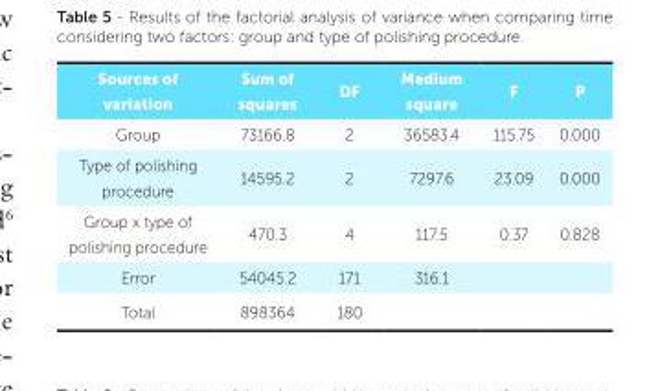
<table><thead><tr><td>Sources of variation</td><td>Sum of squares</td><td>DF</td><td>Medium square</td><td>F</td><td>P</td></tr></thead><tbody><tr><td>Group</td><td>73166.8</td><td>2</td><td>36583.4</td><td>115.75</td><td>0.000</td></tr><tr><td>Type of polishing procedure</td><td>14595.2</td><td>2</td><td>7297.6</td><td>23.09</td><td>0.000</td></tr><tr><td>Group x type of polishing procedure</td><td>470.3</td><td>4</td><td>117.5</td><td>0.37</td><td>0.828</td></tr><tr><td>Error</td><td>54045.2</td><td>171</td><td>316.1</td><td></td><td></td></tr><tr><td>Total</td><td>898364</td><td>180</td><td></td><td></td><td></td></tr></tbody></table>